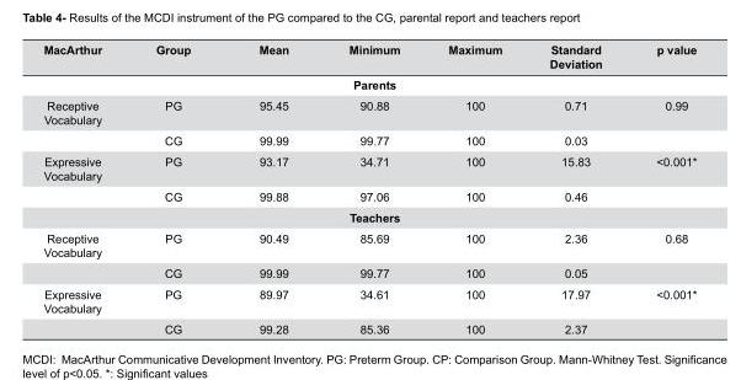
<table><thead><tr><td>MacArthur</td><td>Group</td><td>Mean</td><td>Minimum</td><td>Maximum</td><td>Standard Deviation</td><td>p value</td></tr></thead><tbody><tr><td colspan="7">Parents</td></tr><tr><td rowspan="2">Receptive Vocabulary</td><td>PG</td><td>95.45</td><td>90.88</td><td>100</td><td>0.71</td><td>0.99</td></tr><tr><td>CG</td><td>99.99</td><td>99.77</td><td>100</td><td>0.03</td><td></td></tr><tr><td rowspan="2">Expressive Vocabulary</td><td>PG</td><td>93.17</td><td>34.71</td><td>100</td><td>15.83</td><td>&lt;0.001*</td></tr><tr><td>CG</td><td>99.88</td><td>97.06</td><td>100</td><td>0.46</td><td></td></tr><tr><td colspan="7">Teachers</td></tr><tr><td rowspan="2">Receptive Vocabulary</td><td>PG</td><td>90.49</td><td>85.69</td><td>100</td><td>2.36</td><td>0.68</td></tr><tr><td>CG</td><td>99.99</td><td>99.77</td><td>100</td><td>0.05</td><td></td></tr><tr><td rowspan="2">Expressive Vocabulary</td><td>PG</td><td>89.97</td><td>34.61</td><td>100</td><td>17.97</td><td>&lt;0.001*</td></tr><tr><td>CG</td><td>99.28</td><td>85.36</td><td>100</td><td>2.37</td><td></td></tr></tbody></table>